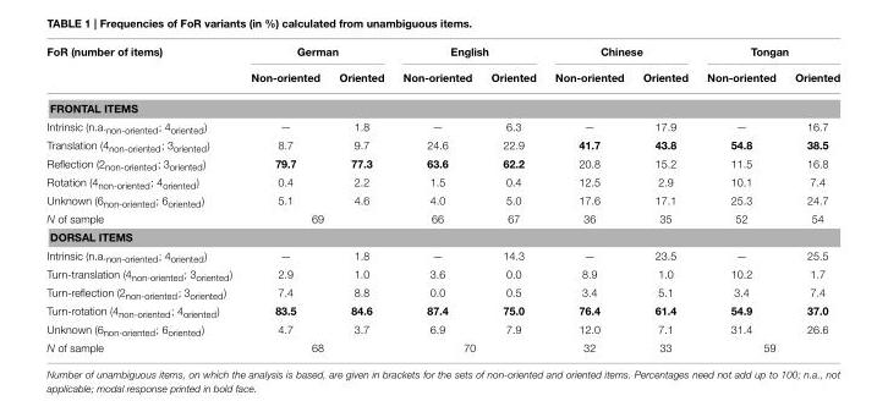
<table><thead><tr><td rowspan="2">FoR (number of items)</td><td colspan="2">German</td><td colspan="2">English</td><td colspan="2">Chinese</td><td colspan="2">Tongan</td></tr><tr><td>Non-oriented</td><td>Oriented</td><td>Non-oriented</td><td>Oriented</td><td>Non-oriented</td><td>Oriented</td><td>Non-oriented</td><td>Oriented</td></tr></thead><tbody><tr><td colspan="9">FRONTAL ITEMS</td></tr><tr><td>Intrinsic (n.a.<sub>non-oriented</sub>; 4<sub>oriented</sub>)</td><td>—</td><td>1.8</td><td>—</td><td>6.3</td><td>—</td><td>17.9</td><td>—</td><td>16.7</td></tr><tr><td>Translation (4<sub>non-oriented</sub>; 3<sub>oriented</sub>)</td><td>8.7</td><td>9.7</td><td>24.6</td><td>22.9</td><td>41.7</td><td>43.8</td><td>54.8</td><td>38.5</td></tr><tr><td>Reflection (2<sub>non-oriented</sub>; 3<sub>oriented</sub>)</td><td>79.7</td><td>77.3</td><td>63.6</td><td>62.2</td><td>20.8</td><td>15.2</td><td>11.5</td><td>16.8</td></tr><tr><td>Rotation (4<sub>non-oriented</sub>; 4<sub>oriented</sub>)</td><td>0.4</td><td>2.2</td><td>1.5</td><td>0.4</td><td>12.5</td><td>2.9</td><td>10.1</td><td>7.4</td></tr><tr><td>Unknown (6<sub>non-oriented</sub>; 6<sub>oriented</sub>)</td><td>5.1</td><td>4.6</td><td>4.0</td><td>5.0</td><td>17.6</td><td>17.1</td><td>25.3</td><td>24.7</td></tr><tr><td>N of sample</td><td colspan="2">69</td><td>66</td><td>67</td><td>36</td><td>35</td><td>52</td><td>54</td></tr><tr><td colspan="9">DORSAL ITEMS</td></tr><tr><td>Intrinsic (n.a.<sub>non-oriented</sub>; 4<sub>oriented</sub>)</td><td>—</td><td>1.8</td><td>—</td><td>14.3</td><td>—</td><td>23.5</td><td>—</td><td>25.5</td></tr><tr><td>Turn-translation (4<sub>non-oriented</sub>; 3<sub>oriented</sub>)</td><td>2.9</td><td>1.0</td><td>3.6</td><td>0.0</td><td>8.9</td><td>1.0</td><td>10.2</td><td>1.7</td></tr><tr><td>Turn-reflection (2<sub>non-oriented</sub>; 3<sub>oriented</sub>)</td><td>7.4</td><td>8.8</td><td>0.0</td><td>0.5</td><td>3.4</td><td>5.1</td><td>3.4</td><td>7.4</td></tr><tr><td>Turn-rotation (4<sub>non-oriented</sub>; 4<sub>oriented</sub>)</td><td>83.5</td><td>84.6</td><td>87.4</td><td>75.0</td><td>76.4</td><td>61.4</td><td>54.9</td><td>37.0</td></tr><tr><td>Unknown (6<sub>non-oriented</sub>; 6<sub>oriented</sub>)</td><td>4.7</td><td>3.7</td><td>6.9</td><td>7.9</td><td>12.0</td><td>7.1</td><td>31.4</td><td>26.6</td></tr><tr><td>N of sample</td><td colspan="2">68</td><td colspan="2">70</td><td>32</td><td>33</td><td colspan="2">59</td></tr></tbody></table>